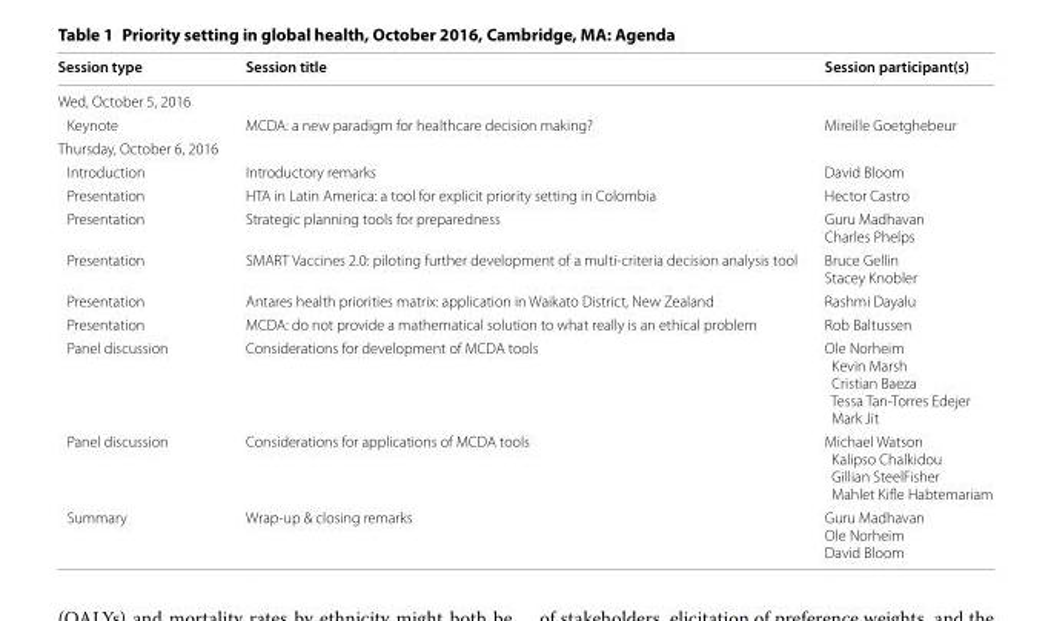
<table><thead><tr><td>Session type</td><td>Session title</td><td>Session participant(s)</td></tr></thead><tbody><tr><td colspan="3">Wed, October 5, 2016</td></tr><tr><td>Keynote</td><td>MCDA: a new paradigm for healthcare decision making?</td><td>Mireille Goetghebeur</td></tr><tr><td colspan="3">Thursday, October 6, 2016</td></tr><tr><td>Introduction</td><td>Introductory remarks</td><td>David Bloom</td></tr><tr><td>Presentation</td><td>HTA in Latin America: a tool for explicit priority setting in Colombia</td><td>Hector Castro</td></tr><tr><td>Presentation</td><td>Strategic planning tools for preparedness</td><td>Guru Madhavan Charles Phelps</td></tr><tr><td>Presentation</td><td>SMART Vaccines 2.0: piloting further development of a multi-criteria decision analysis tool</td><td>Bruce Gellin Stacey Knobler</td></tr><tr><td>Presentation</td><td>Antares health priorities matrix: application in Waikato District, New Zealand</td><td>Rashmi Dayalu</td></tr><tr><td>Presentation</td><td>MCDA: do not provide a mathematical solution to what really is an ethical problem</td><td>Rob Baltussen</td></tr><tr><td>Panel discussion</td><td>Considerations for development of MCDA tools</td><td>Ole Norheim Kevin Marsh Cristian Baeza Tessa Tan-Torres Edejer Mark Jit</td></tr><tr><td>Panel discussion</td><td>Considerations for applications of MCDA tools</td><td>Michael Watson Kalipso Chalkidou Gillian SteelFisher Mahlet Kifle Habtemariam</td></tr><tr><td>Summary</td><td>Wrap-up &amp; closing remarks</td><td>Guru Madhavan Ole Norheim David Bloom</td></tr></tbody></table>